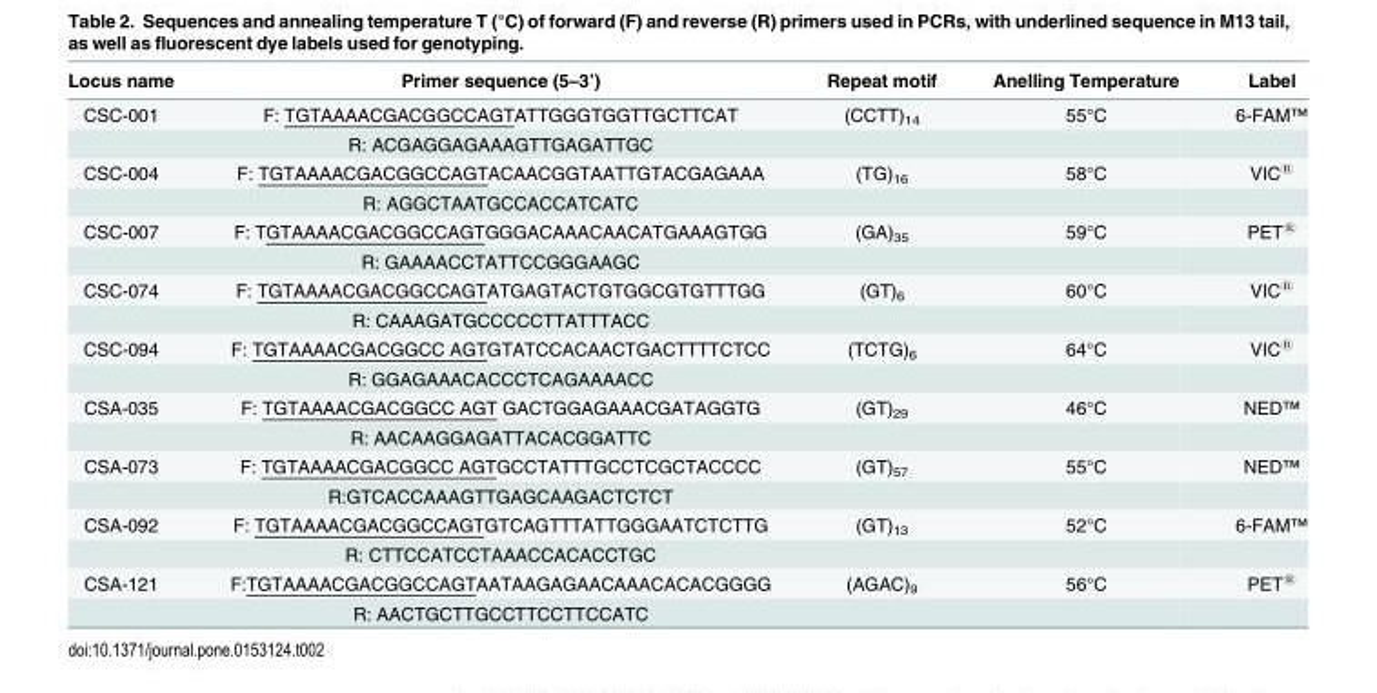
<table><thead><tr><td>Locus name</td><td>Primer sequence (5–3’)</td><td>Repeat motif</td><td>Anelling Temperature</td><td>Label</td></tr></thead><tbody><tr><td rowspan="2">CSC-001</td><td>F: TGTAAAACGACGGCCAGTATTGGGTGGTTGCTTCAT</td><td>(CCTT)<sub>14</sub></td><td>55°C</td><td>6-FAM™</td></tr><tr><td>R: ACGAGGAGAAAGTTGAGATTGC</td><td></td><td></td><td></td></tr><tr><td rowspan="2">CSC-004</td><td>F: TGTAAAACGACGGCCAGTACAACGGTAATTGTACGAGAAA</td><td>(TG)<sub>16</sub></td><td>58°C</td><td>VIC<sup>®</sup></td></tr><tr><td>R: AGGCTAATGCCACCATCATC</td><td></td><td></td><td></td></tr><tr><td rowspan="2">CSC-007</td><td>F: TGTAAAACGACGGCCAGTGGGACAAACAACATGAAAGTGG</td><td>(GA)<sub>35</sub></td><td>59°C</td><td>PET<sup>®</sup></td></tr><tr><td>R: GAAAACCTATTCCGGGAAGC</td><td></td><td></td><td></td></tr><tr><td rowspan="2">CSC-074</td><td>F: TGTAAAACGACGGCCAGTATGAGTACTGTGGCGTGTTTGG</td><td>(GT)<sub>6</sub></td><td>60°C</td><td>VIC<sup>®</sup></td></tr><tr><td>R: CAAAGATGCCCCCTTATTTACC</td><td></td><td></td><td></td></tr><tr><td rowspan="2">CSC-094</td><td>F: TGTAAAACGACGGCC AGTGTATCCACAACTGACTTTTCTCC</td><td>(TCTG)<sub>6</sub></td><td>64°C</td><td>VIC<sup>®</sup></td></tr><tr><td>R: GGAGAAACACCCTCAGAAAACC</td><td></td><td></td><td></td></tr><tr><td rowspan="2">CSA-035</td><td>F: TGTAAAACGACGGCC AGT GACTGGAGAAACGATAGGTG</td><td>(GT)<sub>29</sub></td><td>46°C</td><td>NED™</td></tr><tr><td>R: AACAAGGAGATTACACGGATTC</td><td></td><td></td><td></td></tr><tr><td rowspan="2">CSA-073</td><td>F: TGTAAAACGACGGCC AGTGCCTATTTGCCTCGCTACCCC</td><td>(GT)<sub>57</sub></td><td>55°C</td><td>NED™</td></tr><tr><td>R:GTCACCAAAGTTGAGCAAGACTCTCT</td><td></td><td></td><td></td></tr><tr><td rowspan="2">CSA-092</td><td>F: TGTAAAACGACGGCCAGTGTCAGTTTATTGGGAATCTCTTG</td><td>(GT)<sub>13</sub></td><td>52°C</td><td>6-FAM™</td></tr><tr><td>R: CTTCCATCCTAAACCACACCTGC</td><td></td><td></td><td></td></tr><tr><td rowspan="2">CSA-121</td><td>F:TGTAAAACGACGGCCAGTAATAAGAGAACAAACACACGGGG</td><td>(AGAC)<sub>9</sub></td><td>56°C</td><td>PET<sup>®</sup></td></tr><tr><td>R: AACTGCTTGCCTTCCTTCCATC</td><td></td><td></td><td></td></tr></tbody></table>